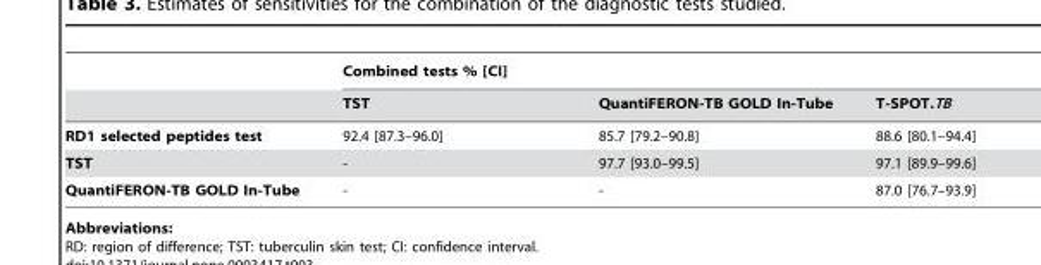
<table><thead><tr><td rowspan="2"></td><td colspan="3">Combined tests % [CI]</td></tr><tr><td>TST</td><td>QuantiFERON-TB GOLD In-Tube</td><td>T-SPOT.TB</td></tr></thead><tbody><tr><td>RD1 selected peptides test</td><td>92.4 [87.3–96.0]</td><td>85.7 [79.2–90.8]</td><td>88.6 [80.1–94.4]</td></tr><tr><td>TST</td><td>-</td><td>97.7 [93.0–99.5]</td><td>97.1 [89.9–99.6]</td></tr><tr><td>QuantiFERON-TB GOLD In-Tube</td><td>-</td><td>-</td><td>87.0 [76.7–93.9]</td></tr></tbody></table>